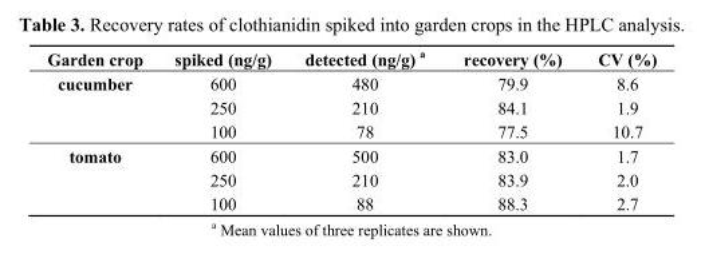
<table><thead><tr><td>Garden crop</td><td>spiked (ng/g)</td><td>detected (ng/g) <sup>a</sup></td><td>recovery (%)</td><td>CV (%)</td></tr></thead><tbody><tr><td rowspan="3">cucumber</td><td>600</td><td>480</td><td>79.9</td><td>8.6</td></tr><tr><td>250</td><td>210</td><td>84.1</td><td>1.9</td></tr><tr><td>100</td><td>78</td><td>77.5</td><td>10.7</td></tr><tr><td rowspan="3">tomato</td><td>600</td><td>500</td><td>83.0</td><td>1.7</td></tr><tr><td>250</td><td>210</td><td>83.9</td><td>2.0</td></tr><tr><td>100</td><td>88</td><td>88.3</td><td>2.7</td></tr></tbody></table>